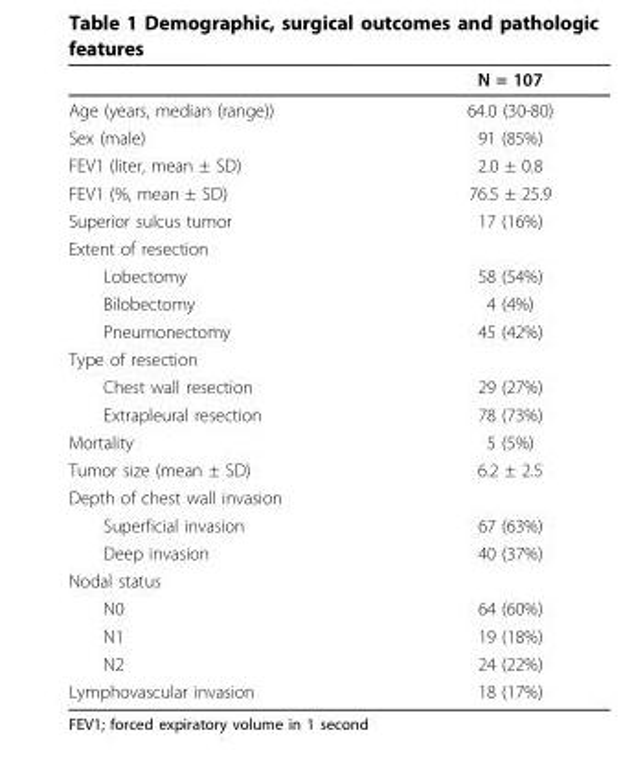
<table><thead><tr><td></td><td>N = 107</td></tr></thead><tbody><tr><td>Age (years, median (range))</td><td>64.0 (30-80)</td></tr><tr><td>Sex (male)</td><td>91 (85%)</td></tr><tr><td>FEV1 (liter, mean ± SD)</td><td>2.0 ± 0.8</td></tr><tr><td>FEV1 (%, mean ± SD)</td><td>76.5 ± 25.9</td></tr><tr><td>Superior sulcus tumor</td><td>17 (16%)</td></tr><tr><td colspan="2">Extent of resection</td></tr><tr><td>Lobectomy</td><td>58 (54%)</td></tr><tr><td>Bilobectomy</td><td>4 (4%)</td></tr><tr><td>Pneumonectomy</td><td>45 (42%)</td></tr><tr><td colspan="2">Type of resection</td></tr><tr><td>Chest wall resection</td><td>29 (27%)</td></tr><tr><td>Extrapleural resection</td><td>78 (73%)</td></tr><tr><td>Mortality</td><td>5 (5%)</td></tr><tr><td>Tumor size (mean ± SD)</td><td>6.2 ± 2.5</td></tr><tr><td colspan="2">Depth of chest wall invasion</td></tr><tr><td>Superficial invasion</td><td>67 (63%)</td></tr><tr><td>Deep invasion</td><td>40 (37%)</td></tr><tr><td colspan="2">Nodal status</td></tr><tr><td>N0</td><td>64 (60%)</td></tr><tr><td>N1</td><td>19 (18%)</td></tr><tr><td>N2</td><td>24 (22%)</td></tr><tr><td>Lymphovascular invasion</td><td>18 (17%)</td></tr></tbody></table>